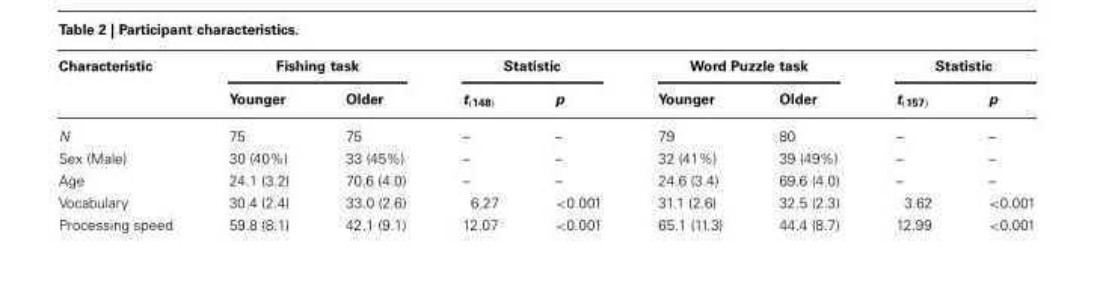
<table><thead><tr><td rowspan="2">Characteristic</td><td colspan="2">Fishing task</td><td colspan="2">Statistic</td><td colspan="2">Word Puzzle task</td><td colspan="2">Statistic</td></tr><tr><td>Younger</td><td>Older</td><td>t<sub>(148)</sub></td><td>p</td><td>Younger</td><td>Older</td><td>t<sub>(157)</sub></td><td>p</td></tr></thead><tbody><tr><td>N</td><td>75</td><td>75</td><td>–</td><td>–</td><td>79</td><td>80</td><td>–</td><td>–</td></tr><tr><td>Sex (Male)</td><td>30 (40%)</td><td>33 (45%)</td><td>–</td><td>–</td><td>32 (41%)</td><td>39 (49%)</td><td>–</td><td>–</td></tr><tr><td>Age</td><td>24.1 (3.2)</td><td>70.6 (4.0)</td><td>–</td><td>–</td><td>24.6 (3.4)</td><td>69.6 (4.0)</td><td>–</td><td>–</td></tr><tr><td>Vocabulary</td><td>30.4 (2.4)</td><td>33.0 (2.6)</td><td>6.27</td><td>&lt;0.001</td><td>31.1 (2.6)</td><td>32.5 (2.3)</td><td>3.62</td><td>&lt;0.001</td></tr><tr><td>Processing speed</td><td>59.8 (8.1)</td><td>42.1 (9.1)</td><td>12.07</td><td>&lt;0.001</td><td>65.1 (11.3)</td><td>44.4 (8.7)</td><td>12.99</td><td>&lt;0.001</td></tr></tbody></table>